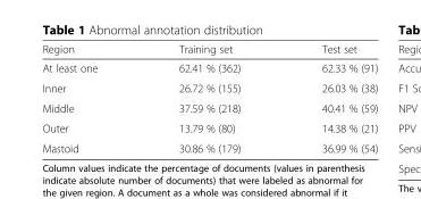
<table><thead><tr><td>Region</td><td>Training set</td><td>Test set</td></tr></thead><tbody><tr><td>At least one</td><td>62.41 % (362)</td><td>62.33 % (91)</td></tr><tr><td>Inner</td><td>26.72 % (155)</td><td>26.03 % (38)</td></tr><tr><td>Middle</td><td>37.59 % (218)</td><td>40.41 % (59)</td></tr><tr><td>Outer</td><td>13.79 % (80)</td><td>14.38 % (21)</td></tr><tr><td>Mastoid</td><td>30.86 % (179)</td><td>36.99 % (54)</td></tr></tbody></table>